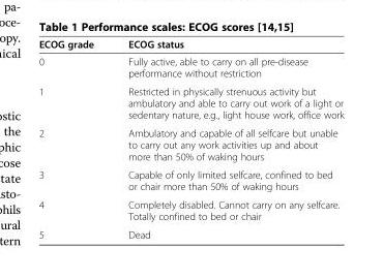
<table><thead><tr><td>ECOG grade</td><td>ECOG status</td></tr></thead><tbody><tr><td>0</td><td>Fully active, able to carry on all pre-disease performance without restriction</td></tr><tr><td>1</td><td>Restricted in physically strenuous activity but ambulatory and able to carry out work of a light or sedentary nature, e.g., light house work, office work</td></tr><tr><td>2</td><td>Ambulatory and capable of all selfcare but unable to carry out any work activities up and about more than 50% of waking hours</td></tr><tr><td>3</td><td>Capable of only limited selfcare, confined to bed or chair more than 50% of waking hours</td></tr><tr><td>4</td><td>Completely disabled. Cannot carry on any selfcare. Totally confined to bed or chair</td></tr><tr><td>5</td><td>Dead</td></tr></tbody></table>